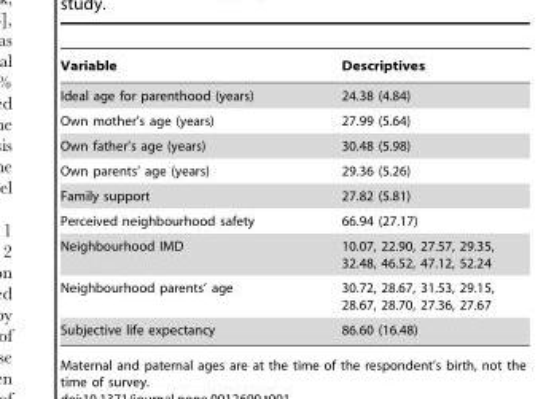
<table><thead><tr><td>Variable</td><td>Descriptives</td></tr></thead><tbody><tr><td>Ideal age for parenthood (years)</td><td>24.38 (4.84)</td></tr><tr><td>Own mother’s age (years)</td><td>27.99 (5.64)</td></tr><tr><td>Own father’s age (years)</td><td>30.48 (5.98)</td></tr><tr><td>Own parents’ age (years)</td><td>29.36 (5.26)</td></tr><tr><td>Family support</td><td>27.82 (5.81)</td></tr><tr><td>Perceived neighbourhood safety</td><td>66.94 (27.17)</td></tr><tr><td>Neighbourhood IMD</td><td>10.07, 22.90, 27.57, 29.35, 32.48, 46.52, 47.12, 52.24</td></tr><tr><td>Neighbourhood parents’ age</td><td>30.72, 28.67, 31.53, 29.15, 28.67, 28.70, 27.36, 27.67</td></tr><tr><td>Subjective life expectancy</td><td>86.60 (16.48)</td></tr></tbody></table>